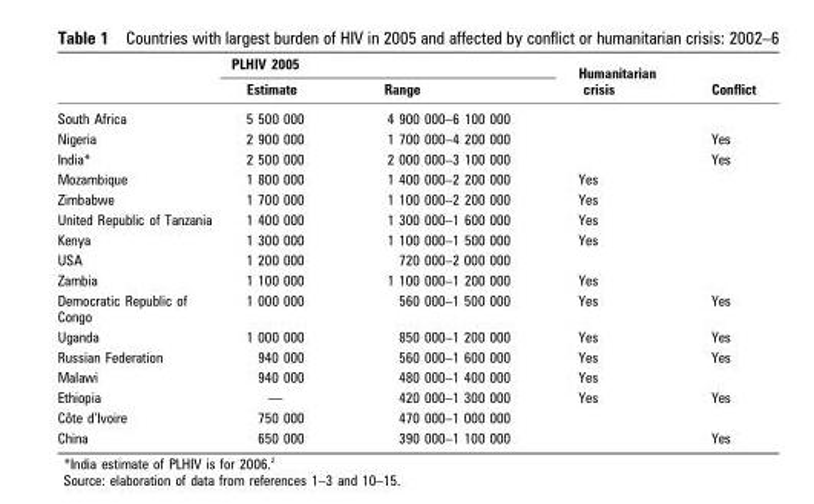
<table><thead><tr><td rowspan="2"></td><td colspan="2">PLHIV 2005</td><td rowspan="2">Humanitarian crisis</td><td rowspan="2">Conflict</td></tr><tr><td>Estimate</td><td>Range</td></tr></thead><tbody><tr><td>South Africa</td><td>5 500 000</td><td>4 900 000–6 100 000</td><td></td><td></td></tr><tr><td>Nigeria</td><td>2 900 000</td><td>1 700 000–4 200 000</td><td></td><td>Yes</td></tr><tr><td>India*</td><td>2 500 000</td><td>2 000 000–3 100 000</td><td></td><td>Yes</td></tr><tr><td>Mozambique</td><td>1 800 000</td><td>1 400 000–2 200 000</td><td>Yes</td><td></td></tr><tr><td>Zimbabwe</td><td>1 700 000</td><td>1 100 000–2 200 000</td><td>Yes</td><td></td></tr><tr><td>United Republic of Tanzania</td><td>1 400 000</td><td>1 300 000–1 600 000</td><td>Yes</td><td></td></tr><tr><td>Kenya</td><td>1 300 000</td><td>1 100 000–1 500 000</td><td>Yes</td><td></td></tr><tr><td>USA</td><td>1 200 000</td><td>720 000–2 000 000</td><td></td><td></td></tr><tr><td>Zambia</td><td>1 100 000</td><td>1 100 000–1 200 000</td><td>Yes</td><td></td></tr><tr><td>Democratic Republic of Congo</td><td>1 000 000</td><td>560 000–1 500 000</td><td>Yes</td><td>Yes</td></tr><tr><td>Uganda</td><td>1 000 000</td><td>850 000–1 200 000</td><td>Yes</td><td>Yes</td></tr><tr><td>Russian Federation</td><td>940 000</td><td>560 000–1 600 000</td><td>Yes</td><td>Yes</td></tr><tr><td>Malawi</td><td>940 000</td><td>480 000–1 400 000</td><td>Yes</td><td></td></tr><tr><td>Ethiopia</td><td>—</td><td>420 000–1 300 000</td><td>Yes</td><td>Yes</td></tr><tr><td>Coˆte d’Ivoire</td><td>750 000</td><td>470 000–1 000 000</td><td></td><td></td></tr><tr><td>China</td><td>650 000</td><td>390 000–1 100 000</td><td></td><td>Yes</td></tr></tbody></table>